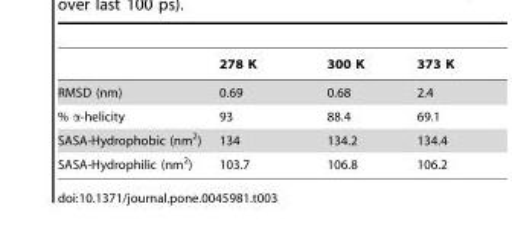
<table><thead><tr><td></td><td>278 K</td><td>300 K</td><td>373 K</td></tr></thead><tbody><tr><td>RMSD (nm)</td><td>0.69</td><td>0.68</td><td>2.4</td></tr><tr><td>% α-helicity</td><td>93</td><td>88.4</td><td>69.1</td></tr><tr><td>SASA-Hydrophobic (nm<sup>2</sup>)</td><td>134</td><td>134.2</td><td>134.4</td></tr><tr><td>SASA-Hydrophilic (nm<sup>2</sup>)</td><td>103.7</td><td>106.8</td><td>106.2</td></tr></tbody></table>